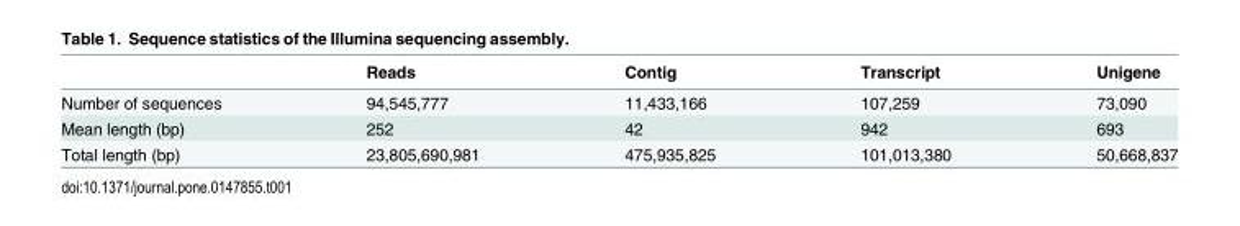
<table><thead><tr><td></td><td>Reads</td><td>Contig</td><td>Transcript</td><td>Unigene</td></tr></thead><tbody><tr><td>Number of sequences</td><td>94,545,777</td><td>11,433,166</td><td>107,259</td><td>73,090</td></tr><tr><td>Mean length (bp)</td><td>252</td><td>42</td><td>942</td><td>693</td></tr><tr><td>Total length (bp)</td><td>23,805,690,981</td><td>475,935,825</td><td>101,013,380</td><td>50,668,837</td></tr></tbody></table>